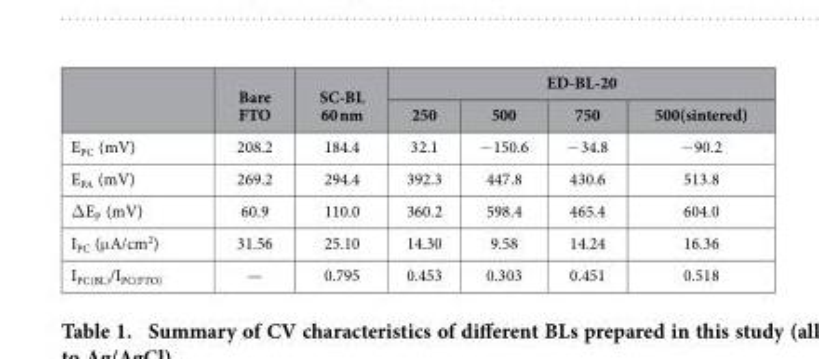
<table><thead><tr><td rowspan="2"></td><td rowspan="2">Bare FTO</td><td rowspan="2">SC-BL 60 nm</td><td colspan="4">ED-BL-20</td></tr><tr><td>250</td><td>500</td><td>750</td><td>500(sintered)</td></tr></thead><tbody><tr><td>E<sub>PC</sub> (mV)</td><td>208.2</td><td>184.4</td><td>32.1</td><td>− 150.6</td><td>− 34.8</td><td>− 90.2</td></tr><tr><td>E<sub>PA</sub> (mV)</td><td>269.2</td><td>294.4</td><td>392.3</td><td>447.8</td><td>430.6</td><td>513.8</td></tr><tr><td>Δ E<sub>P</sub> (mV)</td><td>60.9</td><td>110.0</td><td>360.2</td><td>598.4</td><td>465.4</td><td>604.0</td></tr><tr><td>I<sub>PC</sub> (μ A/cm<sup>2</sup>)</td><td>31.56</td><td>25.10</td><td>14.30</td><td>9.58</td><td>14.24</td><td>16.36</td></tr><tr><td>I<sub>PC(BL)</sub>/I<sub>PC(FTO)</sub></td><td>—</td><td>0.795</td><td>0.453</td><td>0.303</td><td>0.451</td><td>0.518</td></tr></tbody></table>